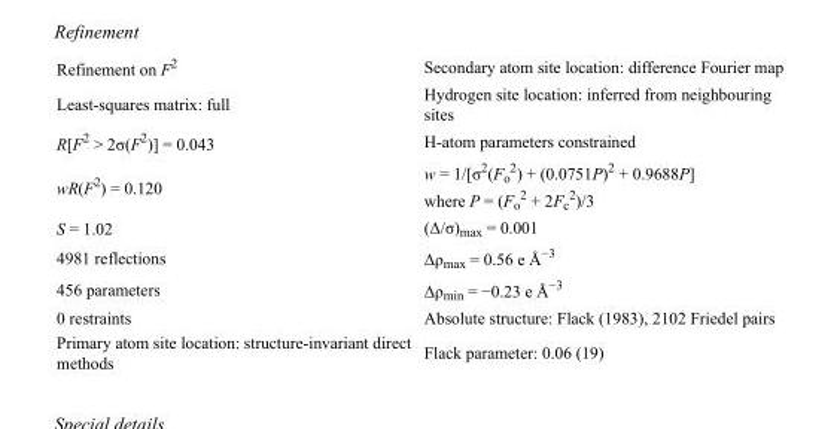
<table><tbody><tr><td>Refinement on F<sup>2</sup></td><td>Secondary atom site location: difference Fourier map</td></tr><tr><td>Least-squares matrix: full</td><td>Hydrogen site location: inferred from neighbouring sites</td></tr><tr><td>R[F<sup>2</sup> &gt; 2σ(F<sup>2</sup>)] = 0.043</td><td>H-atom parameters constrained</td></tr><tr><td>wR(F<sup>2</sup>) = 0.120</td><td>w = 1/[σ<sup>2</sup>(F<sub>o</sub> <sup>2</sup>) + (0.0751P)<sup>2</sup> + 0.9688P] where P = (F<sub>o</sub> <sup>2</sup> + 2F<sub>c</sub> <sup>2</sup>)/3</td></tr><tr><td>S = 1.02</td><td>(Δ/σ)<sub>max</sub> = 0.001</td></tr><tr><td>4981 reflections</td><td>Δρ<sub>max</sub> = 0.56 e Å<sup>−3</sup></td></tr><tr><td>456 parameters</td><td>Δρ<sub>min</sub> = −0.23 e Å<sup>−3</sup></td></tr><tr><td>0 restraints</td><td>Absolute structure: Flack (1983), 2102 Friedel pairs</td></tr><tr><td>Primary atom site location: structure-invariant direct methods</td><td>Flack parameter: 0.06 (19)</td></tr></tbody></table>